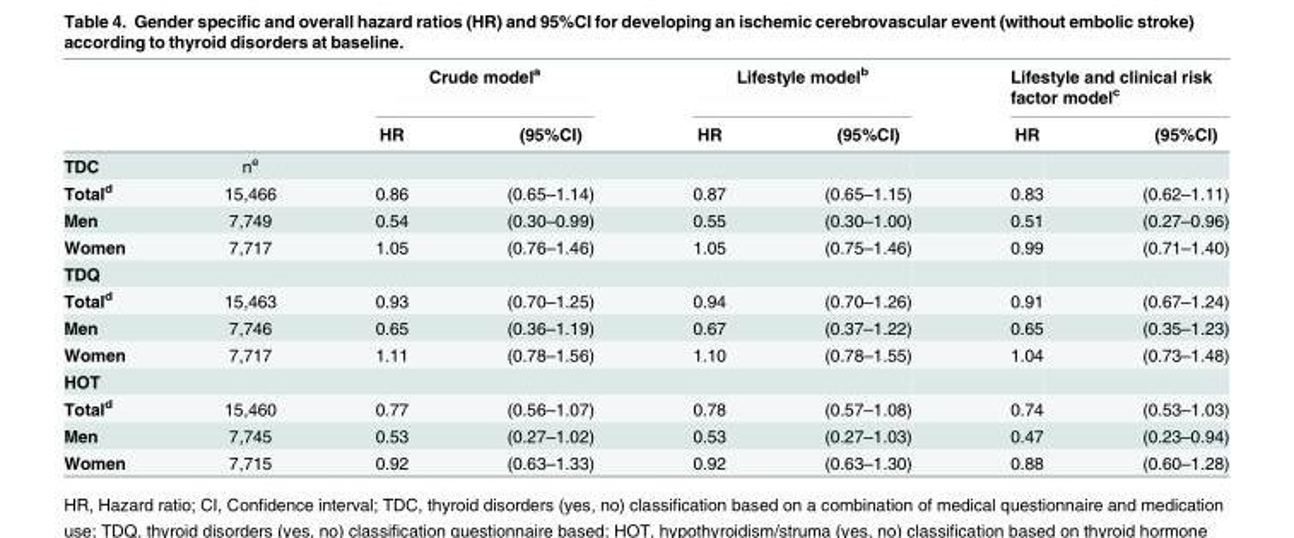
<table><thead><tr><td rowspan="2"></td><td rowspan="2"></td><td colspan="2">Crude model<sup>a</sup></td><td colspan="2">Lifestyle model<sup>b</sup></td><td colspan="2">Lifestyle and clinical risk factor model<sup>c</sup></td></tr><tr><td>HR</td><td>(95%CI)</td><td>HR</td><td>(95%CI)</td><td>HR</td><td>(95%CI)</td></tr></thead><tbody><tr><td>TDC</td><td>n<sup>e</sup></td><td></td><td></td><td></td><td></td><td></td><td></td></tr><tr><td>Total<sup>d</sup></td><td>15,466</td><td>0.86</td><td>(0.65–1.14)</td><td>0.87</td><td>(0.65–1.15)</td><td>0.83</td><td>(0.62–1.11)</td></tr><tr><td>Men</td><td>7,749</td><td>0.54</td><td>(0.30–0.99)</td><td>0.55</td><td>(0.30–1.00)</td><td>0.51</td><td>(0.27–0.96)</td></tr><tr><td>Women</td><td>7,717</td><td>1.05</td><td>(0.76–1.46)</td><td>1.05</td><td>(0.75–1.46)</td><td>0.99</td><td>(0.71–1.40)</td></tr><tr><td colspan="8">TDQ</td></tr><tr><td>Total<sup>d</sup></td><td>15,463</td><td>0.93</td><td>(0.70–1.25)</td><td>0.94</td><td>(0.70–1.26)</td><td>0.91</td><td>(0.67–1.24)</td></tr><tr><td>Men</td><td>7,746</td><td>0.65</td><td>(0.36–1.19)</td><td>0.67</td><td>(0.37–1.22)</td><td>0.65</td><td>(0.35–1.23)</td></tr><tr><td>Women</td><td>7,717</td><td>1.11</td><td>(0.78–1.56)</td><td>1.10</td><td>(0.78–1.55)</td><td>1.04</td><td>(0.73–1.48)</td></tr><tr><td colspan="8">HOT</td></tr><tr><td>Total<sup>d</sup></td><td>15,460</td><td>0.77</td><td>(0.56–1.07)</td><td>0.78</td><td>(0.57–1.08)</td><td>0.74</td><td>(0.53–1.03)</td></tr><tr><td>Men</td><td>7,745</td><td>0.53</td><td>(0.27–1.02)</td><td>0.53</td><td>(0.27–1.03)</td><td>0.47</td><td>(0.23–0.94)</td></tr><tr><td>Women</td><td>7,715</td><td>0.92</td><td>(0.63–1.33)</td><td>0.92</td><td>(0.63–1.30)</td><td>0.88</td><td>(0.60–1.28)</td></tr></tbody></table>